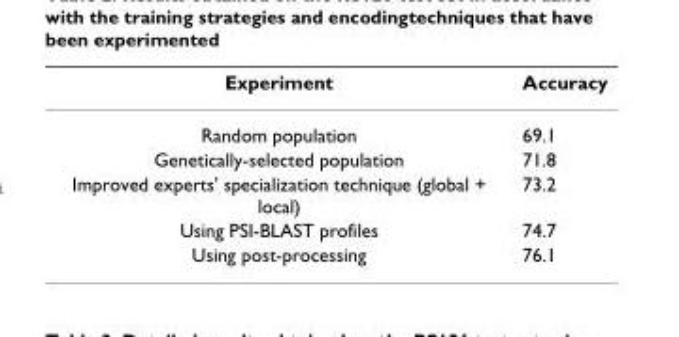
<table><thead><tr><td>Experiment</td><td>Accuracy</td></tr></thead><tbody><tr><td>Random population</td><td>69.1</td></tr><tr><td>Genetically-selected population</td><td>71.8</td></tr><tr><td>Improved experts&#x27; specialization technique (global + local)</td><td>73.2</td></tr><tr><td>Using PSI-BLAST profiles</td><td>74.7</td></tr><tr><td>Using post-processing</td><td>76.1</td></tr></tbody></table>